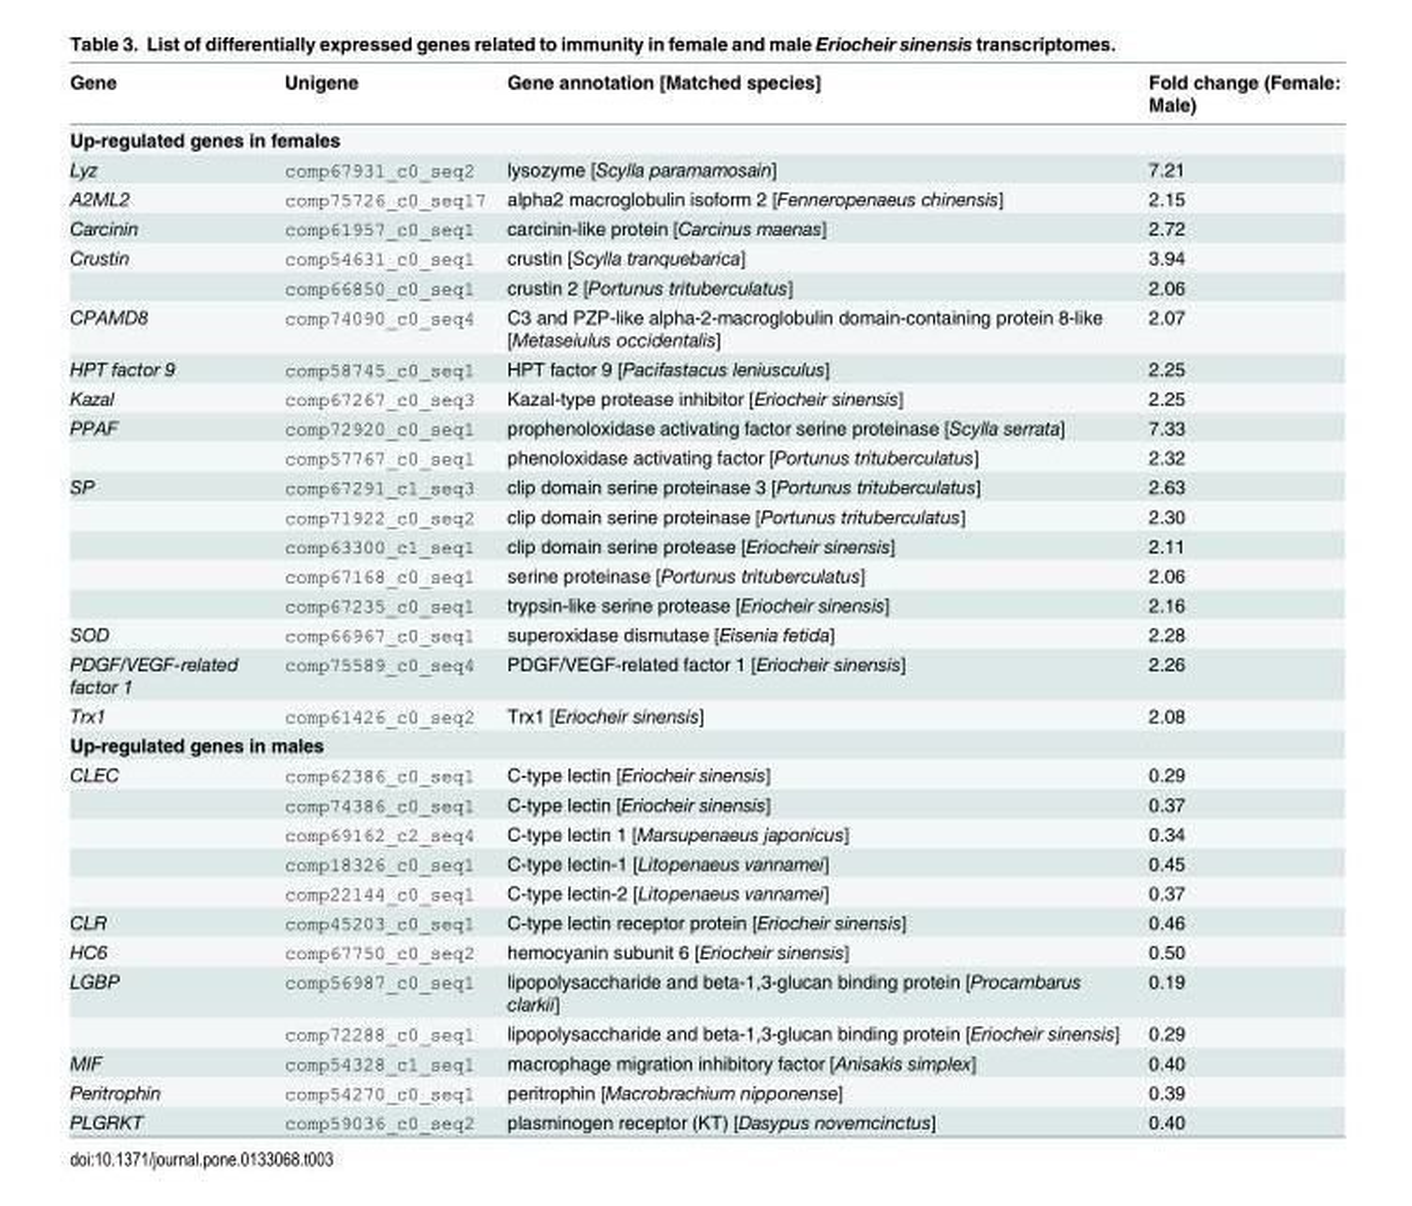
<table><thead><tr><td>Gene</td><td>Unigene</td><td>Gene annotation [Matched species]</td><td>Fold change (Female: Male)</td></tr></thead><tbody><tr><td colspan="4">Up-regulated genes in females</td></tr><tr><td>Lyz</td><td>comp67931_c0_seq2</td><td>lysozyme [Scylla paramamosain]</td><td>7.21</td></tr><tr><td>A2ML2</td><td>comp75726_c0_seq17</td><td>alpha2 macroglobulin isoform 2 [Fenneropenaeus chinensis]</td><td>2.15</td></tr><tr><td>Carcinin</td><td>comp61957_c0_seq1</td><td>carcinin-like protein [Carcinus maenas]</td><td>2.72</td></tr><tr><td rowspan="2">Crustin</td><td>comp54631_c0_seq1</td><td>crustin [Scylla tranquebarica]</td><td>3.94</td></tr><tr><td>comp66850_c0_seq1</td><td>crustin 2 [Portunus trituberculatus]</td><td>2.06</td></tr><tr><td>CPAMD8</td><td>comp74090_c0_seq4</td><td>C3 and PZP-like alpha-2-macroglobulin domain-containing protein 8-like [Metaseiulus occidentalis]</td><td>2.07</td></tr><tr><td>HPT factor 9</td><td>comp58745_c0_seq1</td><td>HPT factor 9 [Pacifastacus leniusculus]</td><td>2.25</td></tr><tr><td>Kazal</td><td>comp67267_c0_seq3</td><td>Kazal-type protease inhibitor [Eriocheir sinensis]</td><td>2.25</td></tr><tr><td rowspan="2">PPAF</td><td>comp72920_c0_seq1</td><td>prophenoloxidase activating factor serine proteinase [Scylla serrata]</td><td>7.33</td></tr><tr><td>comp57767_c0_seq1</td><td>phenoloxidase activating factor [Portunus trituberculatus]</td><td>2.32</td></tr><tr><td rowspan="5">SP</td><td>comp67291_c1_seq3</td><td>clip domain serine proteinase 3 [Portunus trituberculatus]</td><td>2.63</td></tr><tr><td>comp71922_c0_seq2</td><td>clip domain serine proteinase [Portunus trituberculatus]</td><td>2.30</td></tr><tr><td>comp63300_c1_seq1</td><td>clip domain serine protease [Eriocheir sinensis]</td><td>2.11</td></tr><tr><td>comp67168_c0_seq1</td><td>serine proteinase [Portunus trituberculatus]</td><td>2.06</td></tr><tr><td>comp67235_c0_seq1</td><td>trypsin-like serine protease [Eriocheir sinensis]</td><td>2.16</td></tr><tr><td>SOD</td><td>comp66967_c0_seq1</td><td>superoxidase dismutase [Eisenia fetida]</td><td>2.28</td></tr><tr><td>PDGF/VEGF-related factor 1</td><td>comp75589_c0_seq4</td><td>PDGF/VEGF-related factor 1 [Eriocheir sinensis]</td><td>2.26</td></tr><tr><td>Trx1</td><td>comp61426_c0_seq2</td><td>Trx1 [Eriocheir sinensis]</td><td>2.08</td></tr><tr><td colspan="4">Up-regulated genes in males</td></tr><tr><td rowspan="5">CLEC</td><td>comp62386_c0_seq1</td><td>C-type lectin [Eriocheir sinensis]</td><td>0.29</td></tr><tr><td>comp74386_c0_seq1</td><td>C-type lectin [Eriocheir sinensis]</td><td>0.37</td></tr><tr><td>comp69162_c2_seq4</td><td>C-type lectin 1 [Marsupenaeus japonicus]</td><td>0.34</td></tr><tr><td>comp18326_c0_seq1</td><td>C-type lectin-1 [Litopenaeus vannamei]</td><td>0.45</td></tr><tr><td>comp22144_c0_seq1</td><td>C-type lectin-2 [Litopenaeus vannamei]</td><td>0.37</td></tr><tr><td>CLR</td><td>comp45203_c0_seq1</td><td>C-type lectin receptor protein [Eriocheir sinensis]</td><td>0.46</td></tr><tr><td>HC6</td><td>comp67750_c0_seq2</td><td>hemocyanin subunit 6 [Eriocheir sinensis]</td><td>0.50</td></tr><tr><td rowspan="2">LGBP</td><td>comp56987_c0_seq1</td><td>lipopolysaccharide and beta-1,3-glucan binding protein [Procambarus clarkii]</td><td>0.19</td></tr><tr><td>comp72288_c0_seq1</td><td>lipopolysaccharide and beta-1,3-glucan binding protein [Eriocheir sinensis]</td><td>0.29</td></tr><tr><td>MIF</td><td>comp54328_c1_seq1</td><td>macrophage migration inhibitory factor [Anisakis simplex]</td><td>0.40</td></tr><tr><td>Peritrophin</td><td>comp54270_c0_seq1</td><td>peritrophin [Macrobrachium nipponense]</td><td>0.39</td></tr><tr><td>PLGRKT</td><td>comp59036_c0_seq2</td><td>plasminogen receptor (KT) [Dasypus novemcinctus]</td><td>0.40</td></tr></tbody></table>